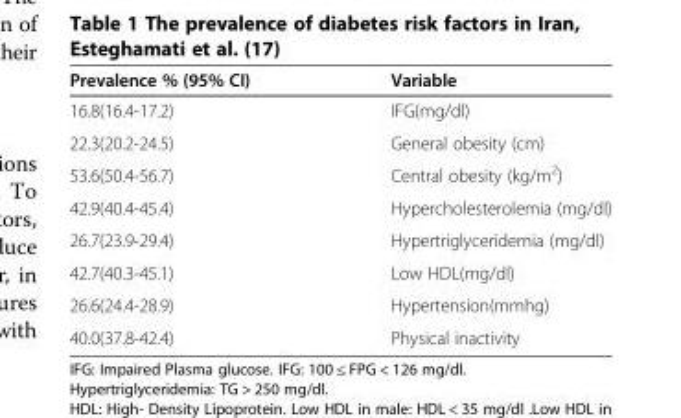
<table><thead><tr><td>Prevalence % (95% CI)</td><td>Variable</td></tr></thead><tbody><tr><td>16.8(16.4-17.2)</td><td>IFG(mg/dl)</td></tr><tr><td>22.3(20.2-24.5)</td><td>General obesity (cm)</td></tr><tr><td>53.6(50.4-56.7)</td><td>Central obesity (kg/m<sup>2</sup>)</td></tr><tr><td>42.9(40.4-45.4)</td><td>Hypercholesterolemia (mg/dl)</td></tr><tr><td>26.7(23.9-29.4)</td><td>Hypertriglyceridemia (mg/dl)</td></tr><tr><td>42.7(40.3-45.1)</td><td>Low HDL(mg/dl)</td></tr><tr><td>26.6(24.4-28.9)</td><td>Hypertension(mmhg)</td></tr><tr><td>40.0(37.8-42.4)</td><td>Physical inactivity</td></tr></tbody></table>